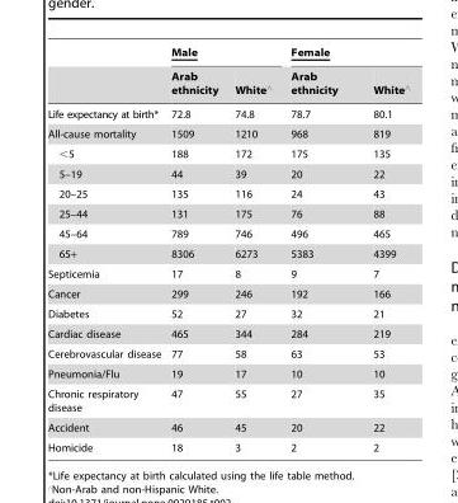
<table><thead><tr><td rowspan="2"></td><td colspan="2">Male</td><td colspan="2">Female</td></tr><tr><td>Arab ethnicity</td><td>White‘</td><td>Arab ethnicity</td><td>White‘</td></tr></thead><tbody><tr><td>Life expectancy at birth*</td><td>72.8</td><td>74.8</td><td>78.7</td><td>80.1</td></tr><tr><td>All-cause mortality</td><td>1509</td><td>1210</td><td>968</td><td>819</td></tr><tr><td>&lt;5</td><td>188</td><td>172</td><td>175</td><td>135</td></tr><tr><td>5–19</td><td>44</td><td>39</td><td>20</td><td>22</td></tr><tr><td>20–25</td><td>135</td><td>116</td><td>24</td><td>43</td></tr><tr><td>25–44</td><td>131</td><td>175</td><td>76</td><td>88</td></tr><tr><td>45–64</td><td>789</td><td>746</td><td>496</td><td>465</td></tr><tr><td>65+</td><td>8306</td><td>6273</td><td>5383</td><td>4399</td></tr><tr><td>Septicemia</td><td>17</td><td>8</td><td>9</td><td>7</td></tr><tr><td>Cancer</td><td>299</td><td>246</td><td>192</td><td>166</td></tr><tr><td>Diabetes</td><td>52</td><td>27</td><td>32</td><td>21</td></tr><tr><td>Cardiac disease</td><td>465</td><td>344</td><td>284</td><td>219</td></tr><tr><td>Cerebrovascular disease</td><td>77</td><td>58</td><td>63</td><td>53</td></tr><tr><td>Pneumonia/Flu</td><td>19</td><td>17</td><td>10</td><td>10</td></tr><tr><td>Chronic respiratory disease</td><td>47</td><td>55</td><td>27</td><td>35</td></tr><tr><td>Accident</td><td>46</td><td>45</td><td>20</td><td>22</td></tr><tr><td>Homicide</td><td>18</td><td>3</td><td>2</td><td>2</td></tr></tbody></table>